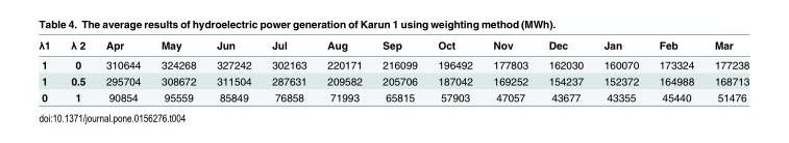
<table><thead><tr><td>λ1</td><td>λ 2</td><td>Apr</td><td>May</td><td>Jun</td><td>Jul</td><td>Aug</td><td>Sep</td><td>Oct</td><td>Nov</td><td>Dec</td><td>Jan</td><td>Feb</td><td>Mar</td></tr></thead><tbody><tr><td>1</td><td>0</td><td>310644</td><td>324268</td><td>327242</td><td>302163</td><td>220171</td><td>216099</td><td>196492</td><td>177803</td><td>162030</td><td>160070</td><td>173324</td><td>177238</td></tr><tr><td>1</td><td>0.5</td><td>295704</td><td>308672</td><td>311504</td><td>287631</td><td>209582</td><td>205706</td><td>187042</td><td>169252</td><td>154237</td><td>152372</td><td>164988</td><td>168713</td></tr><tr><td>0</td><td>1</td><td>90854</td><td>95559</td><td>85849</td><td>76858</td><td>71993</td><td>65815</td><td>57903</td><td>47057</td><td>43677</td><td>43355</td><td>45440</td><td>51476</td></tr></tbody></table>